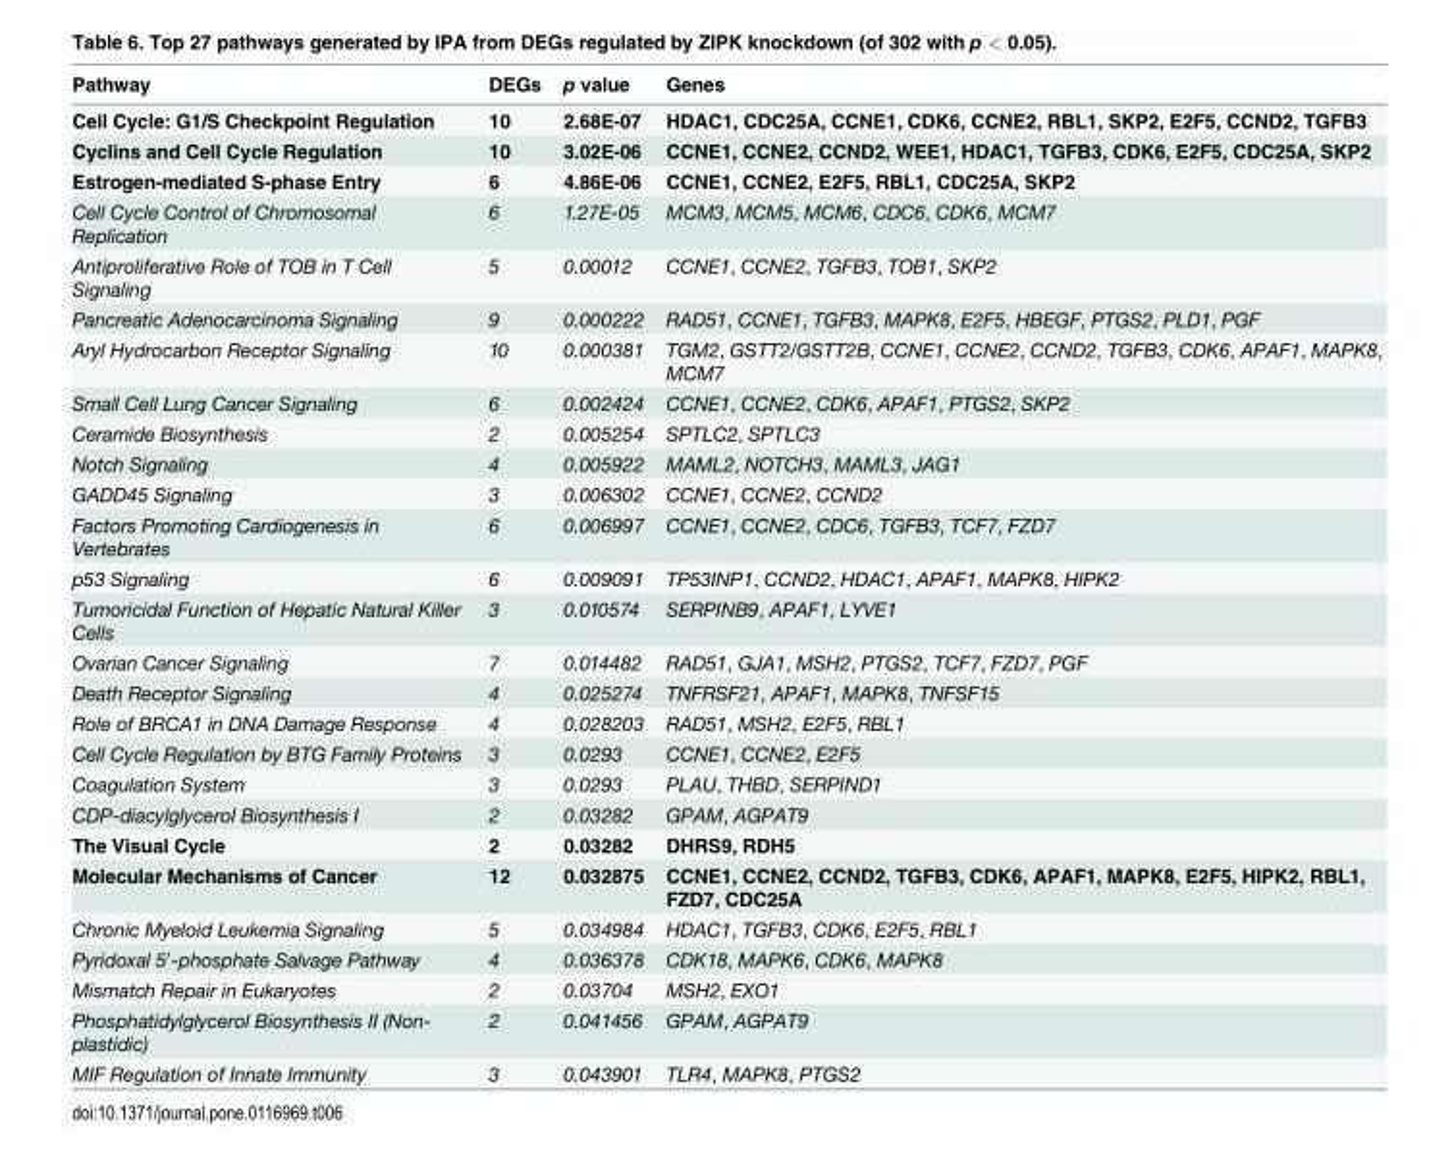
<table><thead><tr><td>Pathway</td><td>DEGs</td><td>p value</td><td>Genes</td></tr></thead><tbody><tr><td>Cell Cycle: G1/S Checkpoint Regulation</td><td>10</td><td>2.68E-07</td><td>HDAC1, CDC25A, CCNE1, CDK6, CCNE2, RBL1, SKP2, E2F5, CCND2, TGFB3</td></tr><tr><td>Cyclins and Cell Cycle Regulation</td><td>10</td><td>3.02E-06</td><td>CCNE1, CCNE2, CCND2, WEE1, HDAC1, TGFB3, CDK6, E2F5, CDC25A, SKP2</td></tr><tr><td>Estrogen-mediated S-phase Entry</td><td>6</td><td>4.86E-06</td><td>CCNE1, CCNE2, E2F5, RBL1, CDC25A, SKP2</td></tr><tr><td>Cell Cycle Control of Chromosomal Replication</td><td>6</td><td>1.27E-05</td><td>MCM3, MCM5, MCM6, CDC6, CDK6, MCM7</td></tr><tr><td>Antiproliferative Role of TOB in T Cell Signaling</td><td>5</td><td>0.00012</td><td>CCNE1, CCNE2, TGFB3, TOB1, SKP2</td></tr><tr><td>Pancreatic Adenocarcinoma Signaling</td><td>9</td><td>0.000222</td><td>RAD51, CCNE1, TGFB3, MAPK8, E2F5, HBEGF, PTGS2, PLD1, PGF</td></tr><tr><td>Aryl Hydrocarbon Receptor Signaling</td><td>10</td><td>0.000381</td><td>TGM2, GSTT2/GSTT2B, CCNE1, CCNE2, CCND2, TGFB3, CDK6, APAF1, MAPK8, MCM7</td></tr><tr><td>Small Cell Lung Cancer Signaling</td><td>6</td><td>0.002424</td><td>CCNE1, CCNE2, CDK6, APAF1, PTGS2, SKP2</td></tr><tr><td>Ceramide Biosynthesis</td><td>2</td><td>0.005254</td><td>SPTLC2, SPTLC3</td></tr><tr><td>Notch Signaling</td><td>4</td><td>0.005922</td><td>MAML2, NOTCH3, MAML3, JAG1</td></tr><tr><td>GADD45 Signaling</td><td>3</td><td>0.006302</td><td>CCNE1, CCNE2, CCND2</td></tr><tr><td>Factors Promoting Cardiogenesis in Vertebrates</td><td>6</td><td>0.006997</td><td>CCNE1, CCNE2, CDC6, TGFB3, TCF7, FZD7</td></tr><tr><td>p53 Signaling</td><td>6</td><td>0.009091</td><td>TP53INP1, CCND2, HDAC1, APAF1, MAPK8, HIPK2</td></tr><tr><td>Tumoricidal Function of Hepatic Natural Killer Cells</td><td>3</td><td>0.010574</td><td>SERPINB9, APAF1, LYVE1</td></tr><tr><td>Ovarian Cancer Signaling</td><td>7</td><td>0.014482</td><td>RAD51, GJA1, MSH2, PTGS2, TCF7, FZD7, PGF</td></tr><tr><td>Death Receptor Signaling</td><td>4</td><td>0.025274</td><td>TNFRSF21, APAF1, MAPK8, TNFSF15</td></tr><tr><td>Role of BRCA1 in DNA Damage Response</td><td>4</td><td>0.028203</td><td>RAD51, MSH2, E2F5, RBL1</td></tr><tr><td>Cell Cycle Regulation by BTG Family Proteins</td><td>3</td><td>0.0293</td><td>CCNE1, CCNE2, E2F5</td></tr><tr><td>Coagulation System</td><td>3</td><td>0.0293</td><td>PLAU, THBD, SERPIND1</td></tr><tr><td>CDP-diacylglycerol Biosynthesis I</td><td>2</td><td>0.03282</td><td>GPAM, AGPAT9</td></tr><tr><td>The Visual Cycle</td><td>2</td><td>0.03282</td><td>DHRS9, RDH5</td></tr><tr><td>Molecular Mechanisms of Cancer</td><td>12</td><td>0.032875</td><td>CCNE1, CCNE2, CCND2, TGFB3, CDK6, APAF1, MAPK8, E2F5, HIPK2, RBL1, FZD7, CDC25A</td></tr><tr><td>Chronic Myeloid Leukemia Signaling</td><td>5</td><td>0.034984</td><td>HDAC1, TGFB3, CDK6, E2F5, RBL1</td></tr><tr><td>Pyridoxal 5′-phosphate Salvage Pathway</td><td>4</td><td>0.036378</td><td>CDK18, MAPK6, CDK6, MAPK8</td></tr><tr><td>Mismatch Repair in Eukaryotes</td><td>2</td><td>0.03704</td><td>MSH2, EXO1</td></tr><tr><td>Phosphatidylglycerol Biosynthesis II (Non- plastidic)</td><td>2</td><td>0.041456</td><td>GPAM, AGPAT9</td></tr><tr><td>MIF Regulation of Innate Immunity</td><td>3</td><td>0.043901</td><td>TLR4, MAPK8, PTGS2</td></tr></tbody></table>